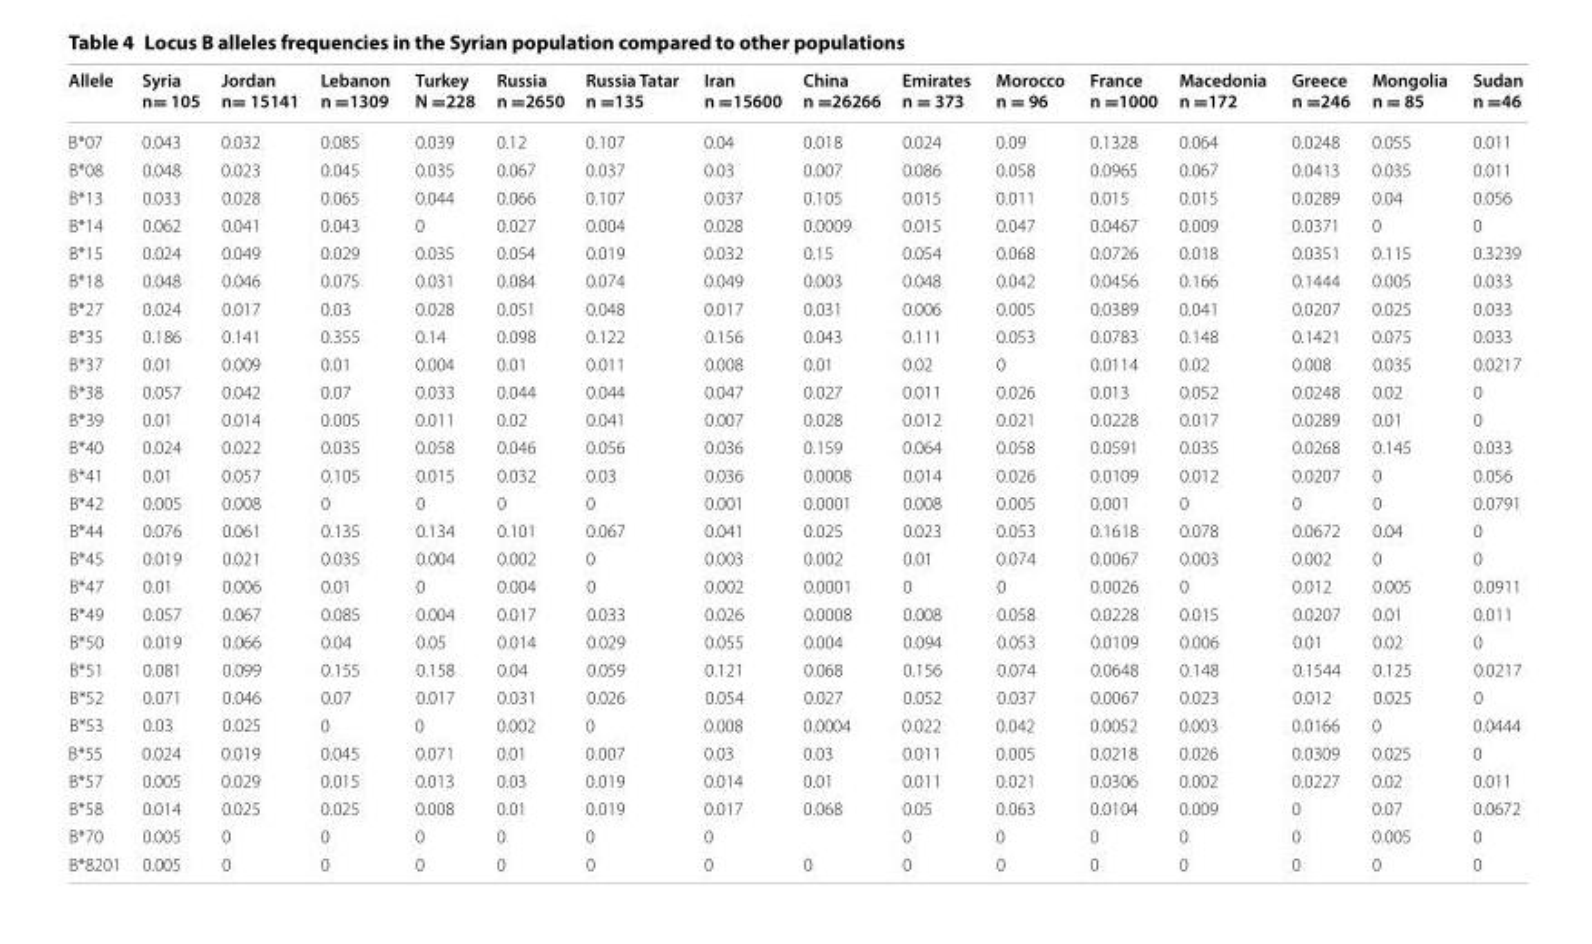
<table><thead><tr><td>Allele</td><td>Syria n= 105</td><td>Jordan n= 15141</td><td>Lebanon n =1309</td><td>Turkey N =228</td><td>Russia n =2650</td><td>Russia Tatar n =135</td><td>Iran n =15600</td><td>China n =26266</td><td>Emirates n = 373</td><td>Morocco n = 96</td><td>France n =1000</td><td>Macedonia n =172</td><td>Greece n =246</td><td>Mongolia n = 85</td><td>Sudan n =46</td></tr></thead><tbody><tr><td>B*07</td><td>0.043</td><td>0.032</td><td>0.085</td><td>0.039</td><td>0.12</td><td>0.107</td><td>0.04</td><td>0.018</td><td>0.024</td><td>0.09</td><td>0.1328</td><td>0.064</td><td>0.0248</td><td>0.055</td><td>0.011</td></tr><tr><td>B*08</td><td>0.048</td><td>0.023</td><td>0.045</td><td>0.035</td><td>0.067</td><td>0.037</td><td>0.03</td><td>0.007</td><td>0.086</td><td>0.058</td><td>0.0965</td><td>0.067</td><td>0.0413</td><td>0.035</td><td>0.011</td></tr><tr><td>B*13</td><td>0.033</td><td>0.028</td><td>0.065</td><td>0.044</td><td>0.066</td><td>0.107</td><td>0.037</td><td>0.105</td><td>0.015</td><td>0.011</td><td>0.015</td><td>0.015</td><td>0.0289</td><td>0.04</td><td>0.056</td></tr><tr><td>B*14</td><td>0.062</td><td>0.041</td><td>0.043</td><td>0</td><td>0.027</td><td>0.004</td><td>0.028</td><td>0.0009</td><td>0.015</td><td>0.047</td><td>0.0467</td><td>0.009</td><td>0.0371</td><td>0</td><td>0</td></tr><tr><td>B*15</td><td>0.024</td><td>0.049</td><td>0.029</td><td>0.035</td><td>0.054</td><td>0.019</td><td>0.032</td><td>0.15</td><td>0.054</td><td>0.068</td><td>0.0726</td><td>0.018</td><td>0.0351</td><td>0.115</td><td>0.3239</td></tr><tr><td>B*18</td><td>0.048</td><td>0.046</td><td>0.075</td><td>0.031</td><td>0.084</td><td>0.074</td><td>0.049</td><td>0.003</td><td>0.048</td><td>0.042</td><td>0.0456</td><td>0.166</td><td>0.1444</td><td>0.005</td><td>0.033</td></tr><tr><td>B*27</td><td>0.024</td><td>0.017</td><td>0.03</td><td>0.028</td><td>0.051</td><td>0.048</td><td>0.017</td><td>0.031</td><td>0.006</td><td>0.005</td><td>0.0389</td><td>0.041</td><td>0.0207</td><td>0.025</td><td>0.033</td></tr><tr><td>B*35</td><td>0.186</td><td>0.141</td><td>0.355</td><td>0.14</td><td>0.098</td><td>0.122</td><td>0.156</td><td>0.043</td><td>0.111</td><td>0.053</td><td>0.0783</td><td>0.148</td><td>0.1421</td><td>0.075</td><td>0.033</td></tr><tr><td>B*37</td><td>0.01</td><td>0.009</td><td>0.01</td><td>0.004</td><td>0.01</td><td>0.011</td><td>0.008</td><td>0.01</td><td>0.02</td><td>0</td><td>0.0114</td><td>0.02</td><td>0.008</td><td>0.035</td><td>0.0217</td></tr><tr><td>B*38</td><td>0.057</td><td>0.042</td><td>0.07</td><td>0.033</td><td>0.044</td><td>0.044</td><td>0.047</td><td>0.027</td><td>0.011</td><td>0.026</td><td>0.013</td><td>0.052</td><td>0.0248</td><td>0.02</td><td>0</td></tr><tr><td>B*39</td><td>0.01</td><td>0.014</td><td>0.005</td><td>0.011</td><td>0.02</td><td>0.041</td><td>0.007</td><td>0.028</td><td>0.012</td><td>0.021</td><td>0.0228</td><td>0.017</td><td>0.0289</td><td>0.01</td><td>0</td></tr><tr><td>B*40</td><td>0.024</td><td>0.022</td><td>0.035</td><td>0.058</td><td>0.046</td><td>0.056</td><td>0.036</td><td>0.159</td><td>0.064</td><td>0.058</td><td>0.0591</td><td>0.035</td><td>0.0268</td><td>0.145</td><td>0.033</td></tr><tr><td>B*41</td><td>0.01</td><td>0.057</td><td>0.105</td><td>0.015</td><td>0.032</td><td>0.03</td><td>0.036</td><td>0.0008</td><td>0.014</td><td>0.026</td><td>0.0109</td><td>0.012</td><td>0.0207</td><td>0</td><td>0.056</td></tr><tr><td>B*42</td><td>0.005</td><td>0.008</td><td>0</td><td>0</td><td>0</td><td>0</td><td>0.001</td><td>0.0001</td><td>0.008</td><td>0.005</td><td>0.001</td><td>0</td><td>0</td><td>0</td><td>0.0791</td></tr><tr><td>B*44</td><td>0.076</td><td>0.061</td><td>0.135</td><td>0.134</td><td>0.101</td><td>0.067</td><td>0.041</td><td>0.025</td><td>0.023</td><td>0.053</td><td>0.1618</td><td>0.078</td><td>0.0672</td><td>0.04</td><td>0</td></tr><tr><td>B*45</td><td>0.019</td><td>0.021</td><td>0.035</td><td>0.004</td><td>0.002</td><td>0</td><td>0.003</td><td>0.002</td><td>0.01</td><td>0.074</td><td>0.0067</td><td>0.003</td><td>0.002</td><td>0</td><td>0</td></tr><tr><td>B*47</td><td>0.01</td><td>0.006</td><td>0.01</td><td>0</td><td>0.004</td><td>0</td><td>0.002</td><td>0.0001</td><td>0</td><td>0</td><td>0.0026</td><td>0</td><td>0.012</td><td>0.005</td><td>0.0911</td></tr><tr><td>B*49</td><td>0.057</td><td>0.067</td><td>0.085</td><td>0.004</td><td>0.017</td><td>0.033</td><td>0.026</td><td>0.0008</td><td>0.008</td><td>0.058</td><td>0.0228</td><td>0.015</td><td>0.0207</td><td>0.01</td><td>0.011</td></tr><tr><td>B*50</td><td>0.019</td><td>0.066</td><td>0.04</td><td>0.05</td><td>0.014</td><td>0.029</td><td>0.055</td><td>0.004</td><td>0.094</td><td>0.053</td><td>0.0109</td><td>0.006</td><td>0.01</td><td>0.02</td><td>0</td></tr><tr><td>B*51</td><td>0.081</td><td>0.099</td><td>0.155</td><td>0.158</td><td>0.04</td><td>0.059</td><td>0.121</td><td>0.068</td><td>0.156</td><td>0.074</td><td>0.0648</td><td>0.148</td><td>0.1544</td><td>0.125</td><td>0.0217</td></tr><tr><td>B*52</td><td>0.071</td><td>0.046</td><td>0.07</td><td>0.017</td><td>0.031</td><td>0.026</td><td>0.054</td><td>0.027</td><td>0.052</td><td>0.037</td><td>0.0067</td><td>0.023</td><td>0.012</td><td>0.025</td><td>0</td></tr><tr><td>B*53</td><td>0.03</td><td>0.025</td><td>0</td><td>0</td><td>0.002</td><td>0</td><td>0.008</td><td>0.0004</td><td>0.022</td><td>0.042</td><td>0.0052</td><td>0.003</td><td>0.0166</td><td>0</td><td>0.0444</td></tr><tr><td>B*55</td><td>0.024</td><td>0.019</td><td>0.045</td><td>0.071</td><td>0.01</td><td>0.007</td><td>0.03</td><td>0.03</td><td>0.011</td><td>0.005</td><td>0.0218</td><td>0.026</td><td>0.0309</td><td>0.025</td><td>0</td></tr><tr><td>B*57</td><td>0.005</td><td>0.029</td><td>0.015</td><td>0.013</td><td>0.03</td><td>0.019</td><td>0.014</td><td>0.01</td><td>0.011</td><td>0.021</td><td>0.0306</td><td>0.002</td><td>0.0227</td><td>0.02</td><td>0.011</td></tr><tr><td>B*58</td><td>0.014</td><td>0.025</td><td>0.025</td><td>0.008</td><td>0.01</td><td>0.019</td><td>0.017</td><td>0.068</td><td>0.05</td><td>0.063</td><td>0.0104</td><td>0.009</td><td>0</td><td>0.07</td><td>0.0672</td></tr><tr><td>B*70</td><td>0.005</td><td>0</td><td>0</td><td>0</td><td>0</td><td>0</td><td>0</td><td></td><td>0</td><td>0</td><td>0</td><td>0</td><td>0</td><td>0.005</td><td>0</td></tr><tr><td>B*8201</td><td>0.005</td><td>0</td><td>0</td><td>0</td><td>0</td><td>0</td><td>0</td><td>0</td><td>0</td><td>0</td><td>0</td><td>0</td><td>0</td><td>0</td><td>0</td></tr></tbody></table>